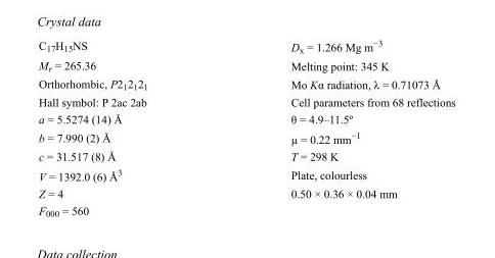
<table><tbody><tr><td>C<sub>17</sub>H<sub>15</sub>NS</td><td>D<sub>x</sub> = 1.266 Mg m<sup>−3</sup></td></tr><tr><td>M<sub>r</sub> = 265.36</td><td>Melting point: 345 K</td></tr><tr><td>Orthorhombic, P2<sub>1</sub>2<sub>1</sub>2<sub>1</sub></td><td>Mo Kα radiation, λ = 0.71073 Å</td></tr><tr><td>Hall symbol: P 2ac 2ab</td><td>Cell parameters from 68 reflections</td></tr><tr><td>a = 5.5274 (14) Å</td><td>θ = 4.9–11.5º</td></tr><tr><td>b = 7.990 (2) Å</td><td>µ = 0.22 mm<sup>−1</sup></td></tr><tr><td>c = 31.517 (8) Å</td><td>T = 298 K</td></tr><tr><td>V = 1392.0 (6) Å<sup>3</sup></td><td>Plate, colourless</td></tr><tr><td>Z = 4</td><td>0.50 × 0.36 × 0.04 mm</td></tr><tr><td>F000 = 560</td><td></td></tr></tbody></table>